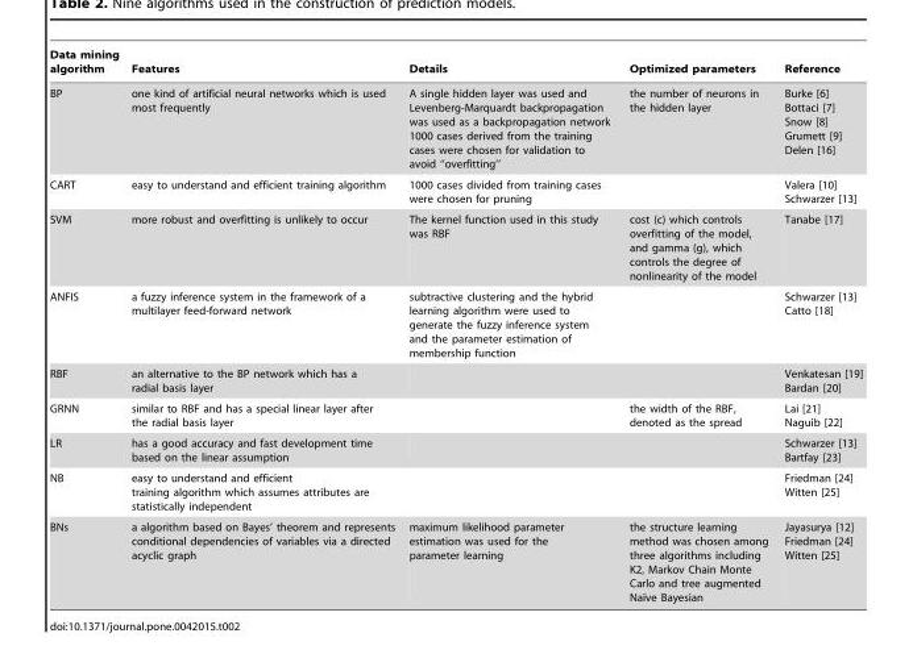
<table><thead><tr><td>Data mining algorithm</td><td>Features</td><td>Details</td><td>Optimized parameters</td><td>Reference</td></tr></thead><tbody><tr><td>BP</td><td>one kind of artificial neural networks which is used most frequently</td><td>A single hidden layer was used and Levenberg-Marquardt backpropagation was used as a backpropagation network 1000 cases derived from the training cases were chosen for validation to avoid ‘‘overfitting’’</td><td>the number of neurons in the hidden layer</td><td>Burke [6] Bottaci [7] Snow [8] Grumett [9] Delen [16]</td></tr><tr><td>CART</td><td>easy to understand and efficient training algorithm</td><td>1000 cases divided from training cases were chosen for pruning</td><td></td><td>Valera [10] Schwarzer [13]</td></tr><tr><td>SVM</td><td>more robust and overfitting is unlikely to occur</td><td>The kernel function used in this study was RBF</td><td>cost (c) which controls overfitting of the model, and gamma (g), which controls the degree of nonlinearity of the model</td><td>Tanabe [17]</td></tr><tr><td>ANFIS</td><td>a fuzzy inference system in the framework of a multilayer feed-forward network</td><td>subtractive clustering and the hybrid learning algorithm were used to generate the fuzzy inference system and the parameter estimation of membership function</td><td></td><td>Schwarzer [13] Catto [18]</td></tr><tr><td>RBF</td><td>an alternative to the BP network which has a radial basis layer</td><td></td><td></td><td>Venkatesan [19] Bardan [20]</td></tr><tr><td>GRNN</td><td>similar to RBF and has a special linear layer after the radial basis layer</td><td></td><td>the width of the RBF, denoted as the spread</td><td>Lai [21] Naguib [22]</td></tr><tr><td>LR</td><td>has a good accuracy and fast development time based on the linear assumption</td><td></td><td></td><td>Schwarzer [13] Bartfay [23]</td></tr><tr><td>NB</td><td>easy to understand and efficient training algorithm which assumes attributes are statistically independent</td><td></td><td></td><td>Friedman [24] Witten [25]</td></tr><tr><td>BNs</td><td>a algorithm based on Bayes’ theorem and represents conditional dependencies of variables via a directed acyclic graph</td><td>maximum likelihood parameter estimation was used for the parameter learning</td><td>the structure learning method was chosen among three algorithms including K2, Markov Chain Monte Carlo and tree augmented Naı¨ve Bayesian</td><td>Jayasurya [12] Friedman [24] Witten [25]</td></tr></tbody></table>